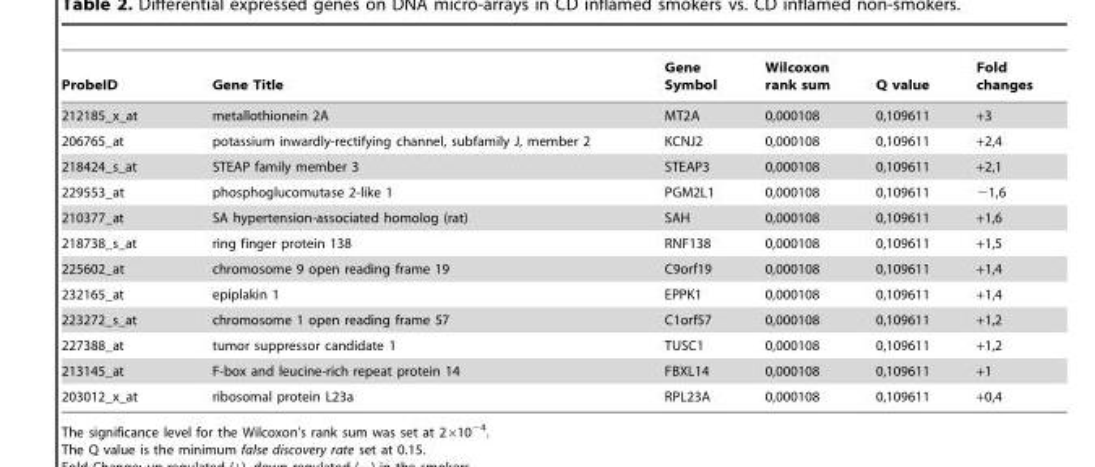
<table><thead><tr><td>ProbeID</td><td>Gene Title</td><td>Gene Symbol</td><td>Wilcoxon rank sum</td><td>Q value</td><td>Fold changes</td></tr></thead><tbody><tr><td>212185_x_at</td><td>metallothionein 2A</td><td>MT2A</td><td>0,000108</td><td>0,109611</td><td>+3</td></tr><tr><td>206765_at</td><td>potassium inwardly-rectifying channel, subfamily J, member 2</td><td>KCNJ2</td><td>0,000108</td><td>0,109611</td><td>+2,4</td></tr><tr><td>218424_s_at</td><td>STEAP family member 3</td><td>STEAP3</td><td>0,000108</td><td>0,109611</td><td>+2,1</td></tr><tr><td>229553_at</td><td>phosphoglucomutase 2-like 1</td><td>PGM2L1</td><td>0,000108</td><td>0,109611</td><td>−1,6</td></tr><tr><td>210377_at</td><td>SA hypertension-associated homolog (rat)</td><td>SAH</td><td>0,000108</td><td>0,109611</td><td>+1,6</td></tr><tr><td>218738_s_at</td><td>ring finger protein 138</td><td>RNF138</td><td>0,000108</td><td>0,109611</td><td>+1,5</td></tr><tr><td>225602_at</td><td>chromosome 9 open reading frame 19</td><td>C9orf19</td><td>0,000108</td><td>0,109611</td><td>+1,4</td></tr><tr><td>232165_at</td><td>epiplakin 1</td><td>EPPK1</td><td>0,000108</td><td>0,109611</td><td>+1,4</td></tr><tr><td>223272_s_at</td><td>chromosome 1 open reading frame 57</td><td>C1orf57</td><td>0,000108</td><td>0,109611</td><td>+1,2</td></tr><tr><td>227388_at</td><td>tumor suppressor candidate 1</td><td>TUSC1</td><td>0,000108</td><td>0,109611</td><td>+1,2</td></tr><tr><td>213145_at</td><td>F-box and leucine-rich repeat protein 14</td><td>FBXL14</td><td>0,000108</td><td>0,109611</td><td>+1</td></tr><tr><td>203012_x_at</td><td>ribosomal protein L23a</td><td>RPL23A</td><td>0,000108</td><td>0,109611</td><td>+0,4</td></tr></tbody></table>